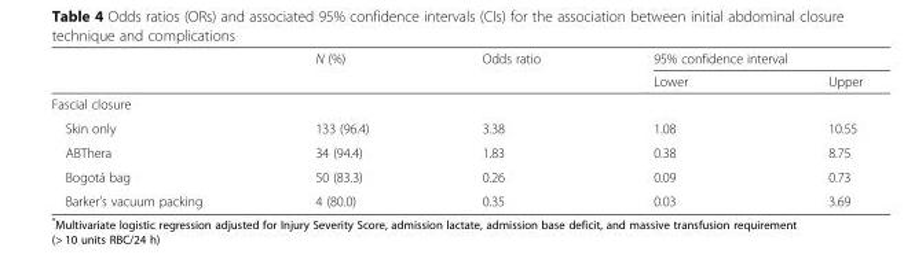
<table><thead><tr><td rowspan="2"></td><td rowspan="2">N (%)</td><td rowspan="2">Odds ratio</td><td colspan="2">95% confidence interval</td></tr><tr><td>Lower</td><td>Upper</td></tr></thead><tbody><tr><td colspan="5">Fascial closure</td></tr><tr><td>Skin only</td><td>133 (96.4)</td><td>3.38</td><td>1.08</td><td>10.55</td></tr><tr><td>ABThera</td><td>34 (94.4)</td><td>1.83</td><td>0.38</td><td>8.75</td></tr><tr><td>Bogotá bag</td><td>50 (83.3)</td><td>0.26</td><td>0.09</td><td>0.73</td></tr><tr><td>Barker’s vacuum packing</td><td>4 (80.0)</td><td>0.35</td><td>0.03</td><td>3.69</td></tr></tbody></table>